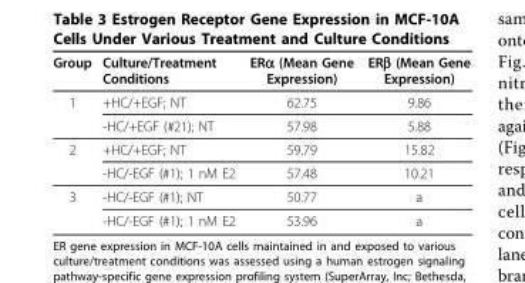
<table><thead><tr><td>Group</td><td>Culture/Treatment Conditions</td><td>ERα (Mean Gene Expression)</td><td>ERβ (Mean Gene Expression)</td></tr></thead><tbody><tr><td rowspan="2">1</td><td>+HC/+EGF; NT</td><td>62.75</td><td>9.86</td></tr><tr><td>-HC/+EGF (#21); NT</td><td>57.98</td><td>5.88</td></tr><tr><td rowspan="2">2</td><td>+HC/+EGF; NT</td><td>59.79</td><td>15.82</td></tr><tr><td>-HC/-EGF (#1); 1 nM E2</td><td>57.48</td><td>10.21</td></tr><tr><td rowspan="2">3</td><td>-HC/-EGF (#1); NT</td><td>50.77</td><td>a</td></tr><tr><td>-HC/-EGF (#1); 1 nM E2</td><td>53.96</td><td>a</td></tr></tbody></table>